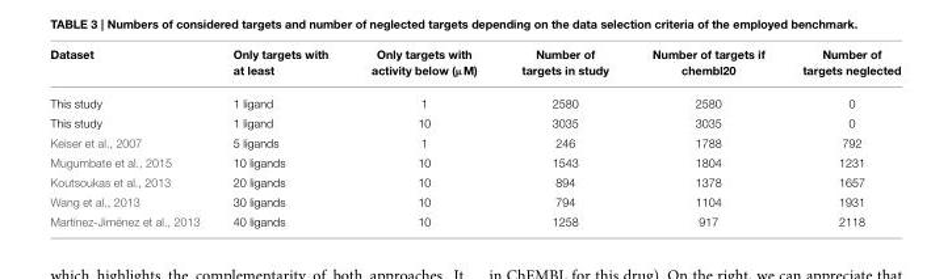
<table><thead><tr><td>Dataset</td><td>Only targets with at least</td><td>Only targets with activity below (µM)</td><td>Number of targets in study</td><td>Number of targets if chembl20</td><td>Number of targets neglected</td></tr></thead><tbody><tr><td>This study</td><td>1 ligand</td><td>1</td><td>2580</td><td>2580</td><td>0</td></tr><tr><td>This study</td><td>1 ligand</td><td>10</td><td>3035</td><td>3035</td><td>0</td></tr><tr><td>Keiser et al., 2007</td><td>5 ligands</td><td>1</td><td>246</td><td>1788</td><td>792</td></tr><tr><td>Mugumbate et al., 2015</td><td>10 ligands</td><td>10</td><td>1543</td><td>1804</td><td>1231</td></tr><tr><td>Koutsoukas et al., 2013</td><td>20 ligands</td><td>10</td><td>894</td><td>1378</td><td>1657</td></tr><tr><td>Wang et al., 2013</td><td>30 ligands</td><td>10</td><td>794</td><td>1104</td><td>1931</td></tr><tr><td>Martínez-Jiménez et al., 2013</td><td>40 ligands</td><td>10</td><td>1258</td><td>917</td><td>2118</td></tr></tbody></table>